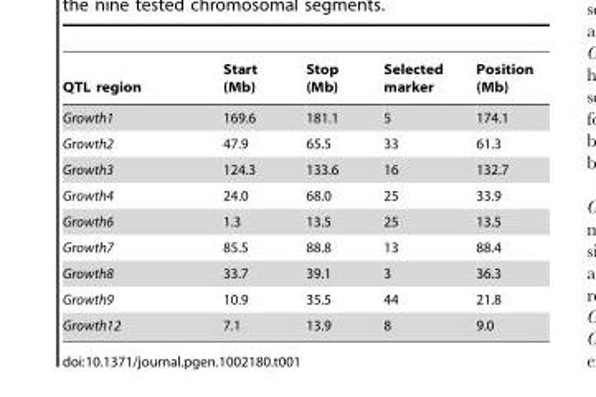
<table><thead><tr><td>QTL region</td><td>Start (Mb)</td><td>Stop (Mb)</td><td>Selected marker</td><td>Position (Mb)</td></tr></thead><tbody><tr><td>Growth1</td><td>169.6</td><td>181.1</td><td>5</td><td>174.1</td></tr><tr><td>Growth2</td><td>47.9</td><td>65.5</td><td>33</td><td>61.3</td></tr><tr><td>Growth3</td><td>124.3</td><td>133.6</td><td>16</td><td>132.7</td></tr><tr><td>Growth4</td><td>24.0</td><td>68.0</td><td>25</td><td>33.9</td></tr><tr><td>Growth6</td><td>1.3</td><td>13.5</td><td>25</td><td>13.5</td></tr><tr><td>Growth7</td><td>85.5</td><td>88.8</td><td>13</td><td>88.4</td></tr><tr><td>Growth8</td><td>33.7</td><td>39.1</td><td>3</td><td>36.3</td></tr><tr><td>Growth9</td><td>10.9</td><td>35.5</td><td>44</td><td>21.8</td></tr><tr><td>Growth12</td><td>7.1</td><td>13.9</td><td>8</td><td>9.0</td></tr></tbody></table>